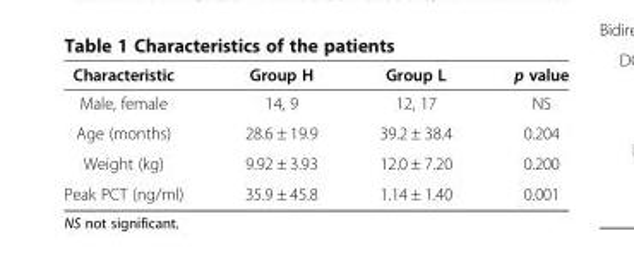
<table><thead><tr><td>Characteristic</td><td>Group H</td><td>Group L</td><td>p value</td></tr></thead><tbody><tr><td>Male, female</td><td>14, 9</td><td>12, 17</td><td>NS</td></tr><tr><td>Age (months)</td><td>28.6 ± 19.9</td><td>39.2 ± 38.4</td><td>0.204</td></tr><tr><td>Weight (kg)</td><td>9.92 ± 3.93</td><td>12.0 ± 7.20</td><td>0.200</td></tr><tr><td>Peak PCT (ng/ml)</td><td>35.9 ± 45.8</td><td>1.14 ± 1.40</td><td>0.001</td></tr></tbody></table>